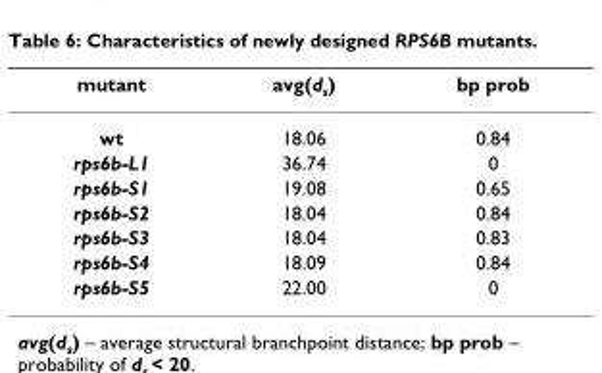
<table><thead><tr><td>mutant</td><td>avg(d<sub>s</sub>)</td><td>bp prob</td></tr></thead><tbody><tr><td>wt</td><td>18.06</td><td>0.84</td></tr><tr><td>rps6b-L1</td><td>36.74</td><td>0</td></tr><tr><td>rps6b-S1</td><td>19.08</td><td>0.65</td></tr><tr><td>rps6b-S2</td><td>18.04</td><td>0.84</td></tr><tr><td>rps6b-S3</td><td>18.04</td><td>0.83</td></tr><tr><td>rps6b-S4</td><td>18.09</td><td>0.84</td></tr><tr><td>rps6b-S5</td><td>22.00</td><td>0</td></tr></tbody></table>